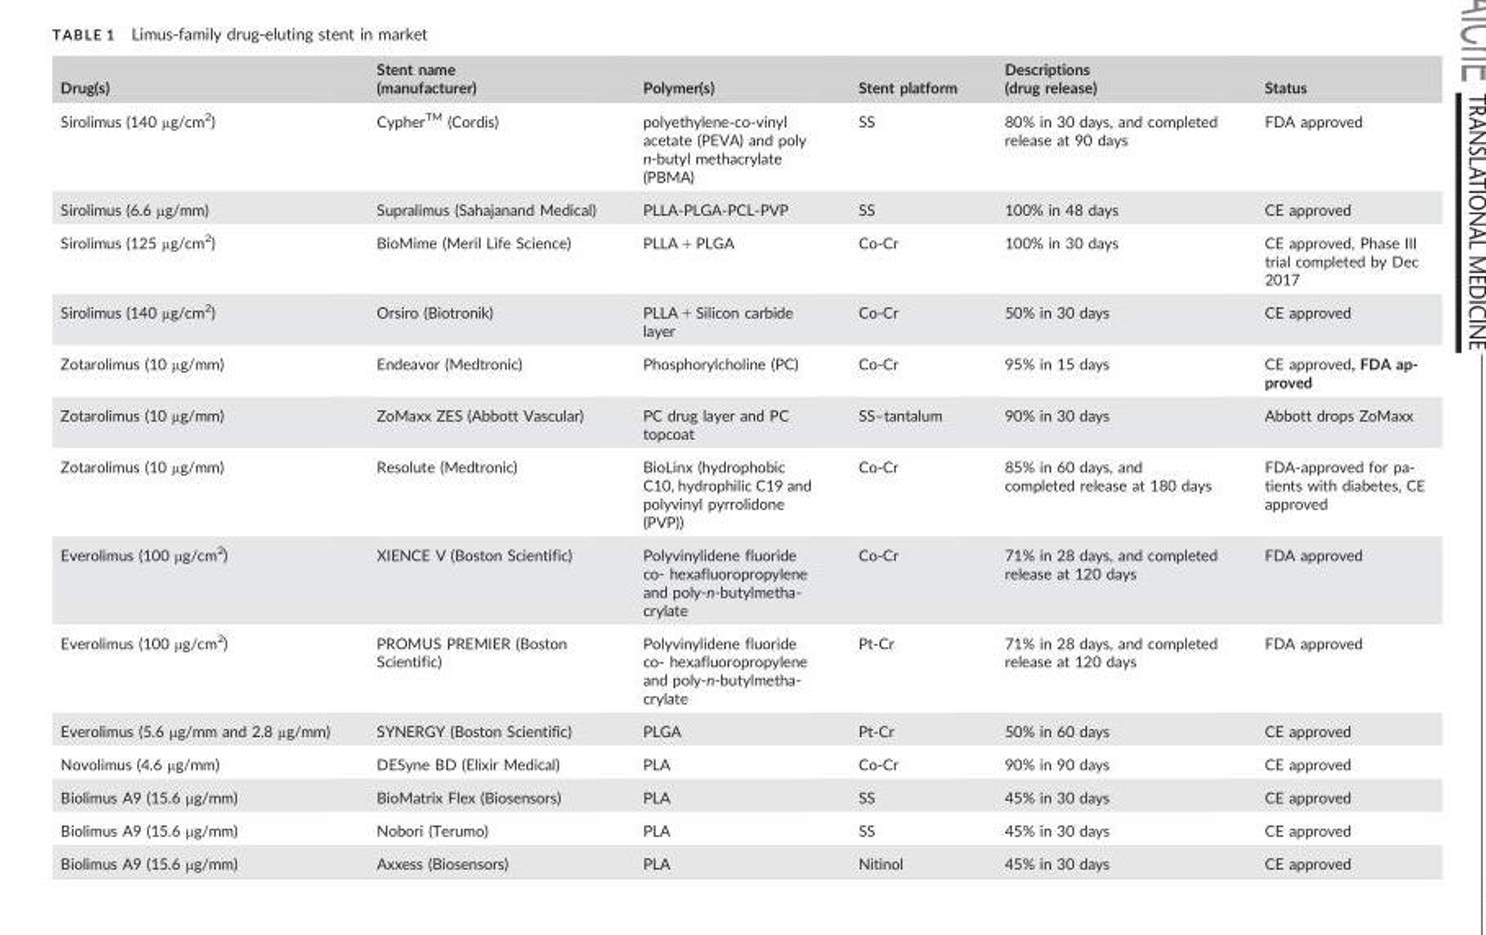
<table><thead><tr><td>Drug(s)</td><td>Stent name (manufacturer)</td><td>Polymer(s)</td><td>Stent platform</td><td>Descriptions (drug release)</td><td>Status</td></tr></thead><tbody><tr><td>Sirolimus (140 µg/cm<sup>2</sup>)</td><td>Cypher<sup>TM</sup> (Cordis)</td><td>polyethylene-co-vinyl acetate (PEVA) and poly n-butyl methacrylate (PBMA)</td><td>SS</td><td>80% in 30 days, and completed release at 90 days</td><td>FDA approved</td></tr><tr><td>Sirolimus (6.6 µg/mm)</td><td>Supralimus (Sahajanand Medical)</td><td>PLLA-PLGA-PCL-PVP</td><td>SS</td><td>100% in 48 days</td><td>CE approved</td></tr><tr><td>Sirolimus (125 µg/cm<sup>2</sup>)</td><td>BioMime (Meril Life Science)</td><td>PLLA + PLGA</td><td>Co-Cr</td><td>100% in 30 days</td><td>CE approved, Phase III trial completed by Dec 2017</td></tr><tr><td>Sirolimus (140 µg/cm<sup>2</sup>)</td><td>Orsiro (Biotronik)</td><td>PLLA + Silicon carbide layer</td><td>Co-Cr</td><td>50% in 30 days</td><td>CE approved</td></tr><tr><td>Zotarolimus (10 µg/mm)</td><td>Endeavor (Medtronic)</td><td>Phosphorylcholine (PC)</td><td>Co-Cr</td><td>95% in 15 days</td><td>CE approved, FDA ap- proved</td></tr><tr><td>Zotarolimus (10 µg/mm)</td><td>ZoMaxx ZES (Abbott Vascular)</td><td>PC drug layer and PC topcoat</td><td>SS–tantalum</td><td>90% in 30 days</td><td>Abbott drops ZoMaxx</td></tr><tr><td>Zotarolimus (10 µg/mm)</td><td>Resolute (Medtronic)</td><td>BioLinx (hydrophobic C10, hydrophilic C19 and polyvinyl pyrrolidone (PVP))</td><td>Co-Cr</td><td>85% in 60 days, and completed release at 180 days</td><td>FDA-approved for pa- tients with diabetes, CE approved</td></tr><tr><td>Everolimus (100 µg/cm<sup>2</sup>)</td><td>XIENCE V (Boston Scientific)</td><td>Polyvinylidene fluoride co- hexafluoropropylene and poly-n-butylmetha- crylate</td><td>Co-Cr</td><td>71% in 28 days, and completed release at 120 days</td><td>FDA approved</td></tr><tr><td>Everolimus (100 µg/cm<sup>2</sup>)</td><td>PROMUS PREMIER (Boston Scientific)</td><td>Polyvinylidene fluoride co- hexafluoropropylene and poly-n-butylmetha- crylate</td><td>Pt-Cr</td><td>71% in 28 days, and completed release at 120 days</td><td>FDA approved</td></tr><tr><td>Everolimus (5.6 µg/mm and 2.8 µg/mm)</td><td>SYNERGY (Boston Scientific)</td><td>PLGA</td><td>Pt-Cr</td><td>50% in 60 days</td><td>CE approved</td></tr><tr><td>Novolimus (4.6 µg/mm)</td><td>DESyne BD (Elixir Medical)</td><td>PLA</td><td>Co-Cr</td><td>90% in 90 days</td><td>CE approved</td></tr><tr><td>Biolimus A9 (15.6 µg/mm)</td><td>BioMatrix Flex (Biosensors)</td><td>PLA</td><td>SS</td><td>45% in 30 days</td><td>CE approved</td></tr><tr><td>Biolimus A9 (15.6 µg/mm)</td><td>Nobori (Terumo)</td><td>PLA</td><td>SS</td><td>45% in 30 days</td><td>CE approved</td></tr><tr><td>Biolimus A9 (15.6 µg/mm)</td><td>Axxess (Biosensors)</td><td>PLA</td><td>Nitinol</td><td>45% in 30 days</td><td>CE approved</td></tr></tbody></table>